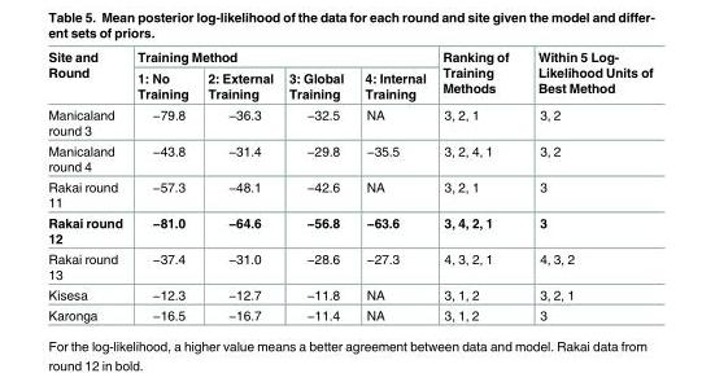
<table><thead><tr><td rowspan="2">Site and Round</td><td colspan="4">Training Method</td><td rowspan="2">Ranking of Training Methods</td><td rowspan="2">Within 5 Log- Likelihood Units of Best Method</td></tr><tr><td>1: No Training</td><td>2: External Training</td><td>3: Global Training</td><td>4: Internal Training</td></tr></thead><tbody><tr><td>Manicaland round 3</td><td>−79.8</td><td>−36.3</td><td>−32.5</td><td>NA</td><td>3, 2, 1</td><td>3, 2</td></tr><tr><td>Manicaland round 4</td><td>−43.8</td><td>−31.4</td><td>−29.8</td><td>−35.5</td><td>3, 2, 4, 1</td><td>3, 2</td></tr><tr><td>Rakai round 11</td><td>−57.3</td><td>−48.1</td><td>−42.6</td><td>NA</td><td>3, 2, 1</td><td>3</td></tr><tr><td>Rakai round 12</td><td>−81.0</td><td>−64.6</td><td>−56.8</td><td>−63.6</td><td>3, 4, 2, 1</td><td>3</td></tr><tr><td>Rakai round 13</td><td>−37.4</td><td>−31.0</td><td>−28.6</td><td>−27.3</td><td>4, 3, 2, 1</td><td>4, 3, 2</td></tr><tr><td>Kisesa</td><td>−12.3</td><td>−12.7</td><td>−11.8</td><td>NA</td><td>3, 1, 2</td><td>3, 2, 1</td></tr><tr><td>Karonga</td><td>−16.5</td><td>−16.7</td><td>−11.4</td><td>NA</td><td>3, 1, 2</td><td>3</td></tr></tbody></table>